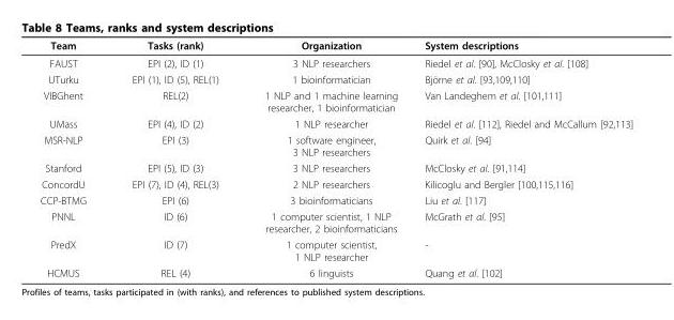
<table><thead><tr><td>Team</td><td>Tasks (rank)</td><td>Organization</td><td>System descriptions</td></tr></thead><tbody><tr><td>FAUST</td><td>EPI (2), ID (1)</td><td>3 NLP researchers</td><td>Riedel et al. [90], McClosky et al. [108]</td></tr><tr><td>UTurku</td><td>EPI (1), ID (5), REL(1)</td><td>1 bioinformatician</td><td>Björne et al. [93,109,110]</td></tr><tr><td>VIBGhent</td><td>REL(2)</td><td>1 NLP and 1 machine learning researcher, 1 bioinformatician</td><td>Van Landeghem et al. [101,111]</td></tr><tr><td>UMass</td><td>EPI (4), ID (2)</td><td>1 NLP researcher</td><td>Riedel et al. [112], Riedel and McCallum [92,113]</td></tr><tr><td>MSR-NLP</td><td>EPI (3)</td><td>1 software engineer, 3 NLP researchers</td><td>Quirk et al. [94]</td></tr><tr><td>Stanford</td><td>EPI (5), ID (3)</td><td>3 NLP researchers</td><td>McClosky et al. [91,114]</td></tr><tr><td>ConcordU</td><td>EPI (7), ID (4), REL(3)</td><td>2 NLP researchers</td><td>Kilicoglu and Bergler [100,115,116]</td></tr><tr><td>CCP-BTMG</td><td>EPI (6)</td><td>3 bioinformaticians</td><td>Liu et al. [117]</td></tr><tr><td>PNNL</td><td>ID (6)</td><td>1 computer scientist, 1 NLP researcher, 2 bioinformaticians</td><td>McGrath et al. [95]</td></tr><tr><td>PredX</td><td>ID (7)</td><td>1 computer scientist, 1 NLP researcher</td><td>-</td></tr><tr><td>HCMUS</td><td>REL (4)</td><td>6 linguists</td><td>Quang et al. [102]</td></tr></tbody></table>